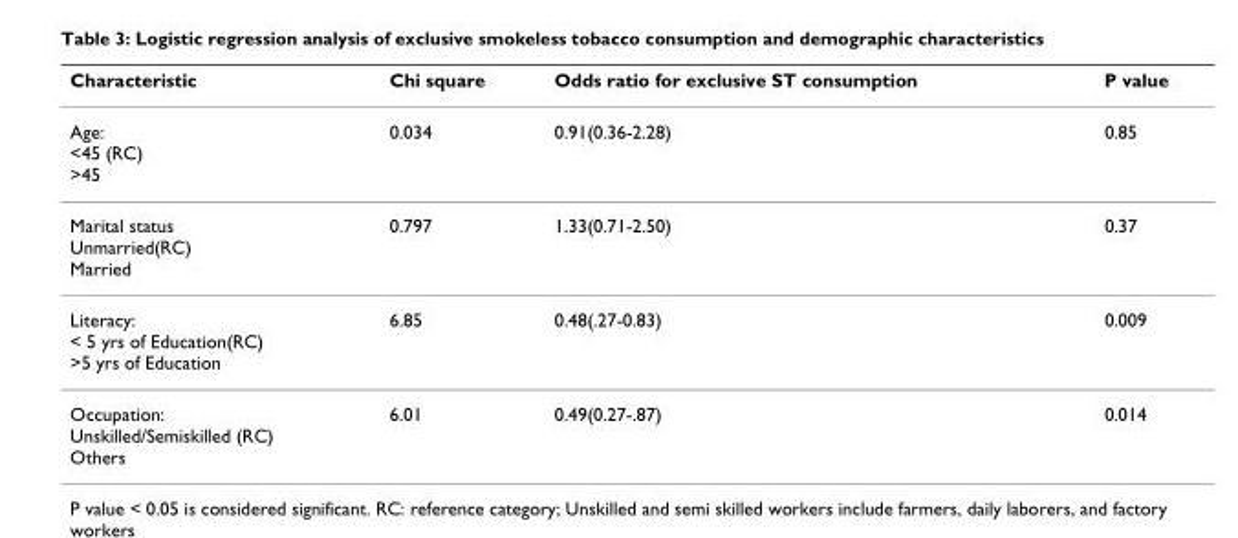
<table><thead><tr><td>Characteristic</td><td>Chi square</td><td>Odds ratio for exclusive ST consumption</td><td>P value</td></tr></thead><tbody><tr><td>Age: &lt;45 (RC) &gt;45</td><td>0.034</td><td>0.91(0.36-2.28)</td><td>0.85</td></tr><tr><td>Marital status Unmarried(RC) Married</td><td>0.797</td><td>1.33(0.71-2.50)</td><td>0.37</td></tr><tr><td>Literacy: &lt; 5 yrs of Education(RC) &gt;5 yrs of Education</td><td>6.85</td><td>0.48(.27-0.83)</td><td>0.009</td></tr><tr><td>Occupation: Unskilled/Semiskilled (RC) Others</td><td>6.01</td><td>0.49(0.27-.87)</td><td>0.014</td></tr></tbody></table>